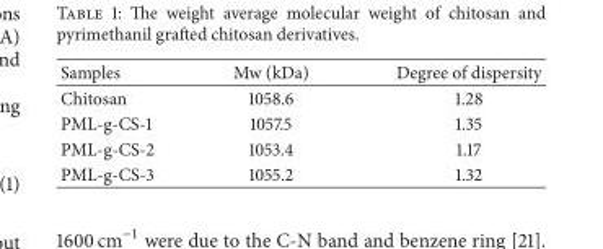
<table><thead><tr><td>Samples</td><td>Mw (kDa)</td><td>Degree of dispersity</td></tr></thead><tbody><tr><td>Chitosan</td><td>1058.6</td><td>1.28</td></tr><tr><td>PML-g-CS-1</td><td>1057.5</td><td>1.35</td></tr><tr><td>PML-g-CS-2</td><td>1053.4</td><td>1.17</td></tr><tr><td>PML-g-CS-3</td><td>1055.2</td><td>1.32</td></tr></tbody></table>